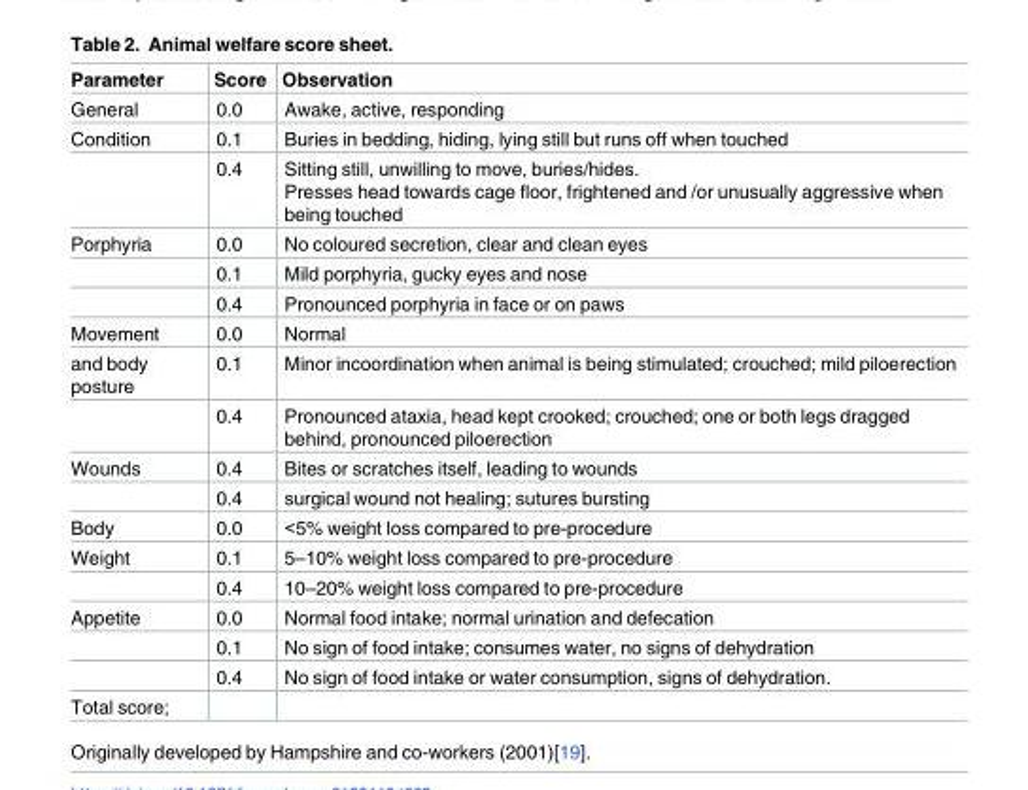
<table><thead><tr><td>Parameter</td><td>Score</td><td>Observation</td></tr></thead><tbody><tr><td>General</td><td>0.0</td><td>Awake, active, responding</td></tr><tr><td rowspan="2">Condition</td><td>0.1</td><td>Buries in bedding, hiding, lying still but runs off when touched</td></tr><tr><td>0.4</td><td>Sitting still, unwilling to move, buries/hides. Presses head towards cage floor, frightened and /or unusually aggressive when being touched</td></tr><tr><td rowspan="3">Porphyria</td><td>0.0</td><td>No coloured secretion, clear and clean eyes</td></tr><tr><td>0.1</td><td>Mild porphyria, gucky eyes and nose</td></tr><tr><td>0.4</td><td>Pronounced porphyria in face or on paws</td></tr><tr><td>Movement</td><td>0.0</td><td>Normal</td></tr><tr><td rowspan="2">and body posture</td><td>0.1</td><td>Minor incoordination when animal is being stimulated; crouched; mild piloerection</td></tr><tr><td>0.4</td><td>Pronounced ataxia, head kept crooked; crouched; one or both legs dragged behind, pronounced piloerection</td></tr><tr><td rowspan="2">Wounds</td><td>0.4</td><td>Bites or scratches itself, leading to wounds</td></tr><tr><td>0.4</td><td>surgical wound not healing; sutures bursting</td></tr><tr><td>Body</td><td>0.0</td><td>&lt;5% weight loss compared to pre-procedure</td></tr><tr><td rowspan="2">Weight</td><td>0.1</td><td>5–10% weight loss compared to pre-procedure</td></tr><tr><td>0.4</td><td>10–20% weight loss compared to pre-procedure</td></tr><tr><td rowspan="3">Appetite</td><td>0.0</td><td>Normal food intake; normal urination and defecation</td></tr><tr><td>0.1</td><td>No sign of food intake; consumes water, no signs of dehydration</td></tr><tr><td>0.4</td><td>No sign of food intake or water consumption, signs of dehydration.</td></tr><tr><td>Total score;</td><td></td><td></td></tr></tbody></table>